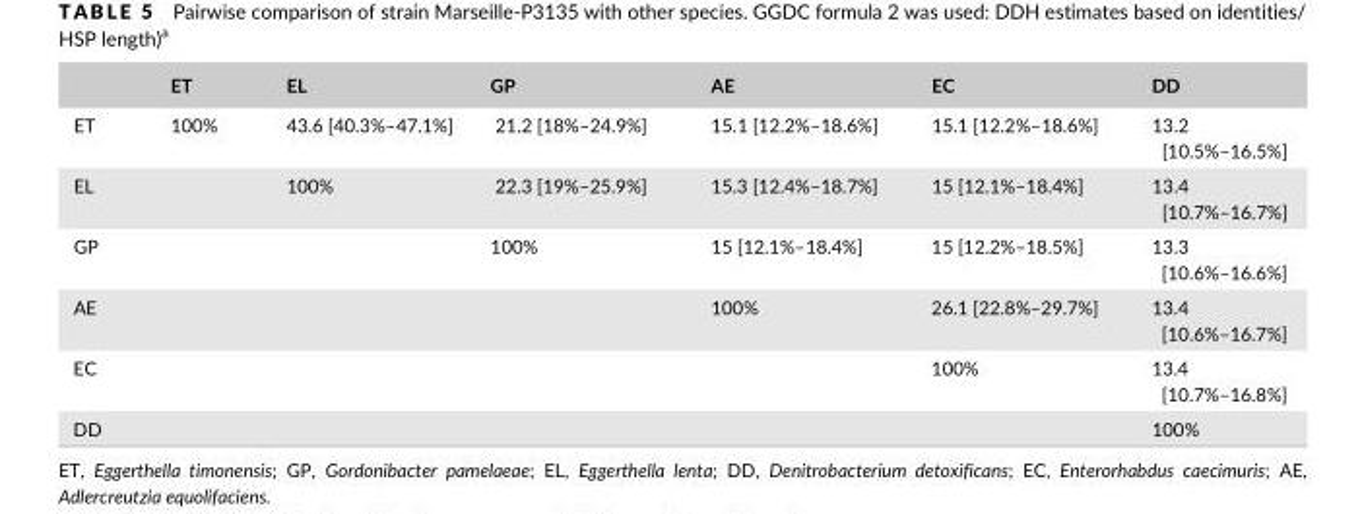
<table><thead><tr><td></td><td>ET</td><td>EL</td><td>GP</td><td>AE</td><td>EC</td><td>DD</td></tr></thead><tbody><tr><td>ET</td><td>100%</td><td>43.6 [40.3%–47.1%]</td><td>21.2 [18%–24.9%]</td><td>15.1 [12.2%–18.6%]</td><td>15.1 [12.2%–18.6%]</td><td>13.2 [10.5%–16.5%]</td></tr><tr><td>EL</td><td></td><td>100%</td><td>22.3 [19%–25.9%]</td><td>15.3 [12.4%–18.7%]</td><td>15 [12.1%–18.4%]</td><td>13.4 [10.7%–16.7%]</td></tr><tr><td>GP</td><td></td><td></td><td>100%</td><td>15 [12.1%–18.4%]</td><td>15 [12.2%–18.5%]</td><td>13.3 [10.6%–16.6%]</td></tr><tr><td>AE</td><td></td><td></td><td></td><td>100%</td><td>26.1 [22.8%–29.7%]</td><td>13.4 [10.6%–16.7%]</td></tr><tr><td>EC</td><td></td><td></td><td></td><td></td><td>100%</td><td>13.4 [10.7%–16.8%]</td></tr><tr><td>DD</td><td></td><td></td><td></td><td></td><td></td><td>100%</td></tr></tbody></table>